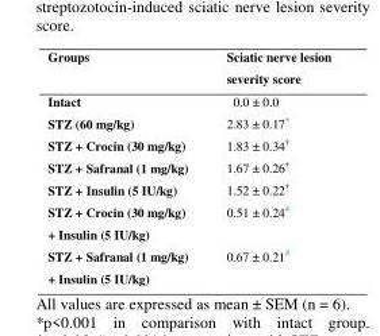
<table><thead><tr><td>Groups</td><td>Sciatic nerve lesion severity score</td></tr></thead><tbody><tr><td>Intact</td><td>0.0 ± 0.0</td></tr><tr><td>STZ (60 mg/kg)</td><td>2.83 ± 0.17*</td></tr><tr><td>STZ + Crocin (30 mg/kg)</td><td>1.83 ± 0.34†</td></tr><tr><td>STZ + Safranal (1 mg/kg)</td><td>1.67 ± 0.26†</td></tr><tr><td>STZ + Insulin (5 IU/kg)</td><td>1.52 ± 0.22†</td></tr><tr><td>STZ + Crocin (30 mg/kg) + Insulin (5 IU/kg)</td><td>0.51 ± 0.24#</td></tr><tr><td>STZ + Safranal (1 mg/kg) + Insulin (5 IU/kg)</td><td>0.67 ± 0.21#</td></tr></tbody></table>